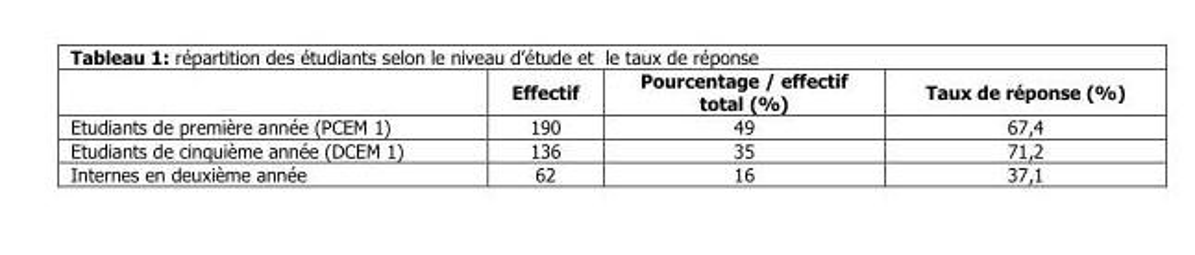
<table><thead><tr><td></td><td>Effectif</td><td>Pourcentage / effectif total (%)</td><td>Taux de réponse (%)</td></tr></thead><tbody><tr><td>Etudiants de première année (PCEM 1)</td><td>190</td><td>49</td><td>67,4</td></tr><tr><td>Etudiants de cinquième année (DCEM 1)</td><td>136</td><td>35</td><td>71,2</td></tr><tr><td>Internes en deuxième année</td><td>62</td><td>16</td><td>37,1</td></tr></tbody></table>